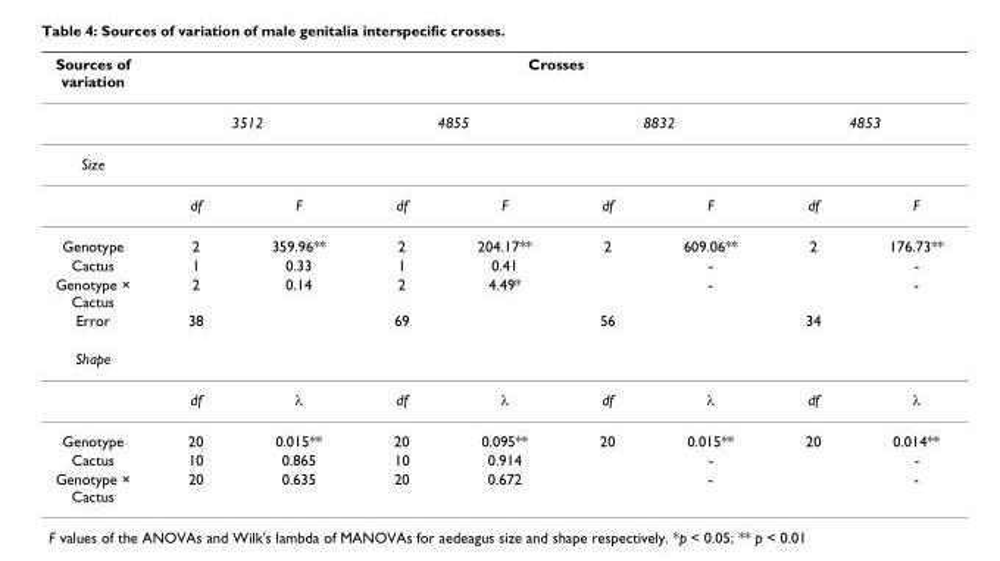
<table><thead><tr><td rowspan="3">Sources of variation Size</td><td colspan="8">Crosses</td></tr><tr><td colspan="2">3512</td><td colspan="2">4855</td><td colspan="2">8832</td><td colspan="2">4853</td></tr><tr><td></td><td></td><td></td><td></td><td></td><td></td><td></td><td></td></tr></thead><tbody><tr><td></td><td>df</td><td>F</td><td>df</td><td>F</td><td>df</td><td>F</td><td>df</td><td>F</td></tr><tr><td>Genotype</td><td>2</td><td>359.96**</td><td>2</td><td>204.17**</td><td>2</td><td>609.06**</td><td>2</td><td>176.73**</td></tr><tr><td>Cactus</td><td>1</td><td>0.33</td><td>1</td><td>0.41</td><td></td><td>-</td><td></td><td>-</td></tr><tr><td>Genotype × Cactus</td><td>2</td><td>0.14</td><td>2</td><td>4.49*</td><td></td><td>-</td><td></td><td>-</td></tr><tr><td>Error</td><td>38</td><td></td><td>69</td><td></td><td>56</td><td></td><td>34</td><td></td></tr><tr><td colspan="9">Shape</td></tr><tr><td></td><td>df</td><td>λ</td><td>df</td><td>λ</td><td>df</td><td>λ</td><td>df</td><td>λ</td></tr><tr><td>Genotype</td><td>20</td><td>0.015**</td><td>20</td><td>0.095**</td><td>20</td><td>0.015**</td><td>20</td><td>0.014**</td></tr><tr><td>Cactus</td><td>10</td><td>0.865</td><td>10</td><td>0.914</td><td></td><td>-</td><td></td><td>-</td></tr><tr><td>Genotype × Cactus</td><td>20</td><td>0.635</td><td>20</td><td>0.672</td><td></td><td>-</td><td></td><td>-</td></tr></tbody></table>